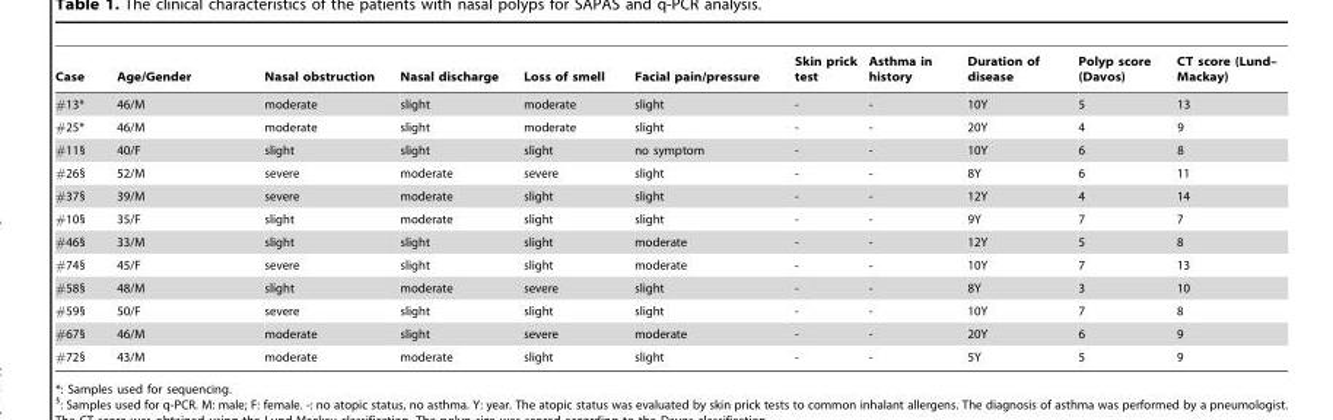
<table><thead><tr><td>Case</td><td>Age/Gender</td><td>Nasal obstruction</td><td>Nasal discharge</td><td>Loss of smell</td><td>Facial pain/pressure</td><td>Skin prick test</td><td>Asthma in history</td><td>Duration of disease</td><td>Polyp score (Davos)</td><td>CT score (Lund– Mackay)</td></tr></thead><tbody><tr><td>#13*</td><td>46/M</td><td>moderate</td><td>slight</td><td>moderate</td><td>slight</td><td>-</td><td>-</td><td>10Y</td><td>5</td><td>13</td></tr><tr><td>#25*</td><td>46/M</td><td>moderate</td><td>slight</td><td>moderate</td><td>slight</td><td>-</td><td>-</td><td>20Y</td><td>4</td><td>9</td></tr><tr><td>#11§</td><td>40/F</td><td>slight</td><td>slight</td><td>slight</td><td>no symptom</td><td>-</td><td>-</td><td>10Y</td><td>6</td><td>8</td></tr><tr><td>#26§</td><td>52/M</td><td>severe</td><td>moderate</td><td>severe</td><td>slight</td><td>-</td><td>-</td><td>8Y</td><td>6</td><td>11</td></tr><tr><td>#37§</td><td>39/M</td><td>severe</td><td>moderate</td><td>slight</td><td>slight</td><td>-</td><td>-</td><td>12Y</td><td>4</td><td>14</td></tr><tr><td>#10§</td><td>35/F</td><td>slight</td><td>moderate</td><td>slight</td><td>slight</td><td>-</td><td>-</td><td>9Y</td><td>7</td><td>7</td></tr><tr><td>#46§</td><td>33/M</td><td>slight</td><td>slight</td><td>slight</td><td>moderate</td><td>-</td><td>-</td><td>12Y</td><td>5</td><td>8</td></tr><tr><td>#74§</td><td>45/F</td><td>severe</td><td>slight</td><td>slight</td><td>moderate</td><td>-</td><td>-</td><td>10Y</td><td>7</td><td>13</td></tr><tr><td>#58§</td><td>48/M</td><td>slight</td><td>moderate</td><td>severe</td><td>slight</td><td>-</td><td>-</td><td>8Y</td><td>3</td><td>10</td></tr><tr><td>#59§</td><td>50/F</td><td>severe</td><td>slight</td><td>slight</td><td>slight</td><td>-</td><td>-</td><td>10Y</td><td>7</td><td>8</td></tr><tr><td>#67§</td><td>46/M</td><td>moderate</td><td>slight</td><td>severe</td><td>moderate</td><td>-</td><td>-</td><td>20Y</td><td>6</td><td>9</td></tr><tr><td>#72§</td><td>43/M</td><td>moderate</td><td>moderate</td><td>slight</td><td>slight</td><td>-</td><td>-</td><td>5Y</td><td>5</td><td>9</td></tr></tbody></table>